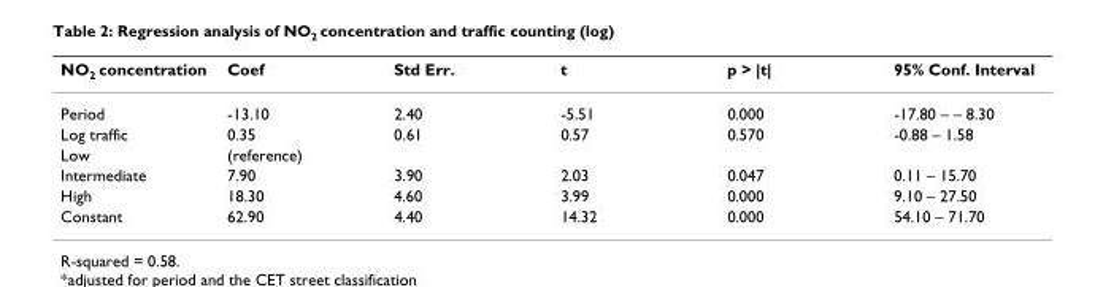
<table><thead><tr><td>NO<sub>2</sub> concentration</td><td>Coef</td><td>Std Err.</td><td>t</td><td>p &gt; |t|</td><td>95% Conf. Interval</td></tr></thead><tbody><tr><td>Period</td><td>-13.10</td><td>2.40</td><td>-5.51</td><td>0.000</td><td>-17.80 – – 8.30</td></tr><tr><td>Log traffic</td><td>0.35</td><td>0.61</td><td>0.57</td><td>0.570</td><td>-0.88 – 1.58</td></tr><tr><td>Low</td><td>(reference)</td><td></td><td></td><td></td><td></td></tr><tr><td>Intermediate</td><td>7.90</td><td>3.90</td><td>2.03</td><td>0.047</td><td>0.11 – 15.70</td></tr><tr><td>High</td><td>18.30</td><td>4.60</td><td>3.99</td><td>0.000</td><td>9.10 – 27.50</td></tr><tr><td>Constant</td><td>62.90</td><td>4.40</td><td>14.32</td><td>0.000</td><td>54.10 – 71.70</td></tr></tbody></table>